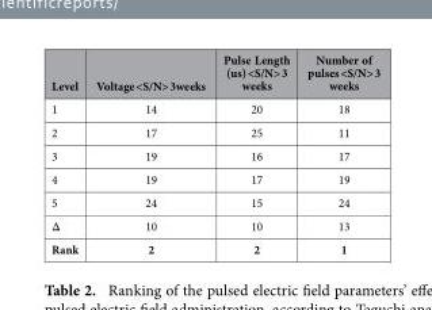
<table><thead><tr><td>Level</td><td>Voltage &lt;S/N&gt; 3weeks</td><td>Pulse Length (us) &lt;S/N&gt; 3 weeks</td><td>Number of pulses &lt;S/N&gt; 3 weeks</td></tr></thead><tbody><tr><td>1</td><td>14</td><td>20</td><td>18</td></tr><tr><td>2</td><td>17</td><td>25</td><td>11</td></tr><tr><td>3</td><td>19</td><td>16</td><td>17</td></tr><tr><td>4</td><td>19</td><td>17</td><td>19</td></tr><tr><td>5</td><td>24</td><td>15</td><td>24</td></tr><tr><td>Δ</td><td>10</td><td>10</td><td>13</td></tr><tr><td>Rank</td><td>2</td><td>2</td><td>1</td></tr></tbody></table>